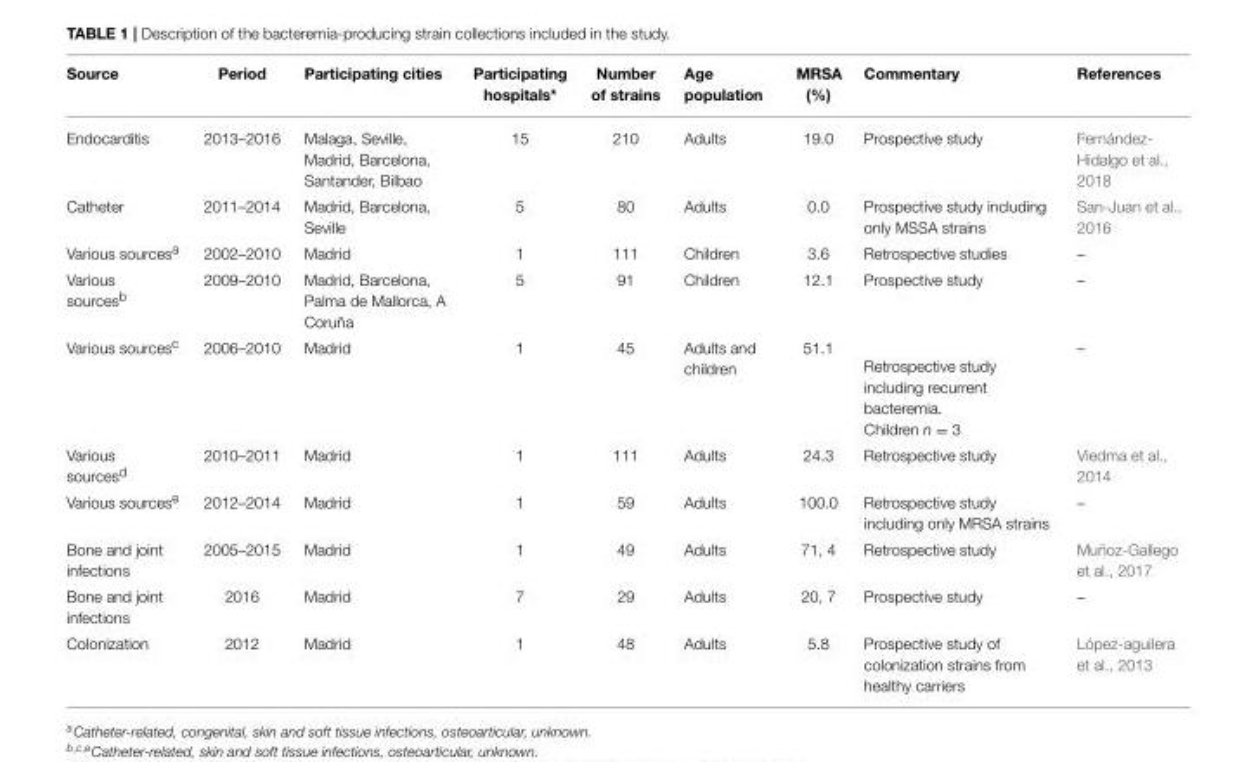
<table><thead><tr><td>Source</td><td>Period</td><td>Participating cities</td><td>Participating hospitals*</td><td>Number of strains</td><td>Age population</td><td>MRSA (%)</td><td>Commentary</td><td>References</td></tr></thead><tbody><tr><td>Endocarditis</td><td>2013–2016</td><td>Malaga, Seville, Madrid, Barcelona, Santander, Bilbao</td><td>15</td><td>210</td><td>Adults</td><td>19.0</td><td>Prospective study</td><td>Fernández- Hidalgo et al., 2018</td></tr><tr><td>Catheter</td><td>2011–2014</td><td>Madrid, Barcelona, Seville</td><td>5</td><td>80</td><td>Adults</td><td>0.0</td><td>Prospective study including only MSSA strains</td><td>San-Juan et al., 2016</td></tr><tr><td>Various sources<sup>a</sup></td><td>2002–2010</td><td>Madrid</td><td>1</td><td>111</td><td>Children</td><td>3.6</td><td>Retrospective studies</td><td>–</td></tr><tr><td>Various sources<sup>b</sup></td><td>2009–2010</td><td>Madrid, Barcelona, Palma de Mallorca, A Coruña</td><td>5</td><td>91</td><td>Children</td><td>12.1</td><td>Prospective study</td><td>–</td></tr><tr><td>Various sourcesc</td><td>2006–2010</td><td>Madrid</td><td>1</td><td>45</td><td>Adults and children</td><td>51.1</td><td>Retrospective study including recurrent bacteremia. Children n = 3</td><td>–</td></tr><tr><td>Various sources<sup>d</sup></td><td>2010–2011</td><td>Madrid</td><td>1</td><td>111</td><td>Adults</td><td>24.3</td><td>Retrospective study</td><td>Viedma et al., 2014</td></tr><tr><td>Various sources<sup>e</sup></td><td>2012–2014</td><td>Madrid</td><td>1</td><td>59</td><td>Adults</td><td>100.0</td><td>Retrospective study including only MRSA strains</td><td>–</td></tr><tr><td>Bone and joint infections</td><td>2005–2015</td><td>Madrid</td><td>1</td><td>49</td><td>Adults</td><td>71, 4</td><td>Retrospective study</td><td>Muñoz-Gallego et al., 2017</td></tr><tr><td>Bone and joint infections</td><td>2016</td><td>Madrid</td><td>7</td><td>29</td><td>Adults</td><td>20, 7</td><td>Prospective study</td><td>–</td></tr><tr><td>Colonization</td><td>2012</td><td>Madrid</td><td>1</td><td>48</td><td>Adults</td><td>5.8</td><td>Prospective study of colonization strains from healthy carriers</td><td>López-aguilera et al., 2013</td></tr></tbody></table>